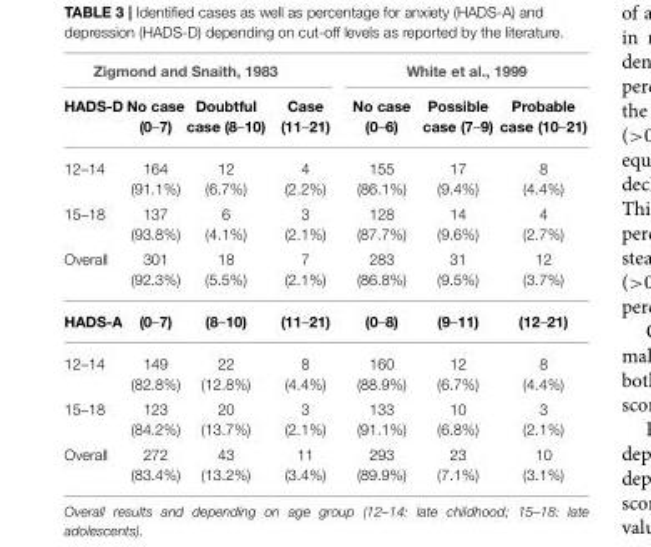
<table><thead><tr><td colspan="4">Zigmond and Snaith, 1983</td><td colspan="3">White et al., 1999</td></tr><tr><td>HADS-D</td><td>No case (0–7)</td><td>Doubtful case (8–10)</td><td>Case (11–21)</td><td>No case (0–6)</td><td>Possible case (7–9)</td><td>Probable case (10–21)</td></tr></thead><tbody><tr><td>12–14</td><td>164 (91.1%)</td><td>12 (6.7%)</td><td>4 (2.2%)</td><td>155 (86.1%)</td><td>17 (9.4%)</td><td>8 (4.4%)</td></tr><tr><td>15–18</td><td>137 (93.8%)</td><td>6 (4.1%)</td><td>3 (2.1%)</td><td>128 (87.7%)</td><td>14 (9.6%)</td><td>4 (2.7%)</td></tr><tr><td>Overall</td><td>301 (92.3%)</td><td>18 (5.5%)</td><td>7 (2.1%)</td><td>283 (86.8%)</td><td>31 (9.5%)</td><td>12 (3.7%)</td></tr><tr><td>HADS-A</td><td>(0–7)</td><td>(8–10)</td><td>(11–21)</td><td>(0–8)</td><td>(9–11)</td><td>(12–21)</td></tr><tr><td>12–14</td><td>149 (82.8%)</td><td>22 (12.8%)</td><td>8 (4.4%)</td><td>160 (88.9%)</td><td>12 (6.7%)</td><td>8 (4.4%)</td></tr><tr><td>15–18</td><td>123 (84.2%)</td><td>20 (13.7%)</td><td>3 (2.1%)</td><td>133 (91.1%)</td><td>10 (6.8%)</td><td>3 (2.1%)</td></tr><tr><td>Overall</td><td>272 (83.4%)</td><td>43 (13.2%)</td><td>11 (3.4%)</td><td>293 (89.9%)</td><td>23 (7.1%)</td><td>10 (3.1%)</td></tr></tbody></table>